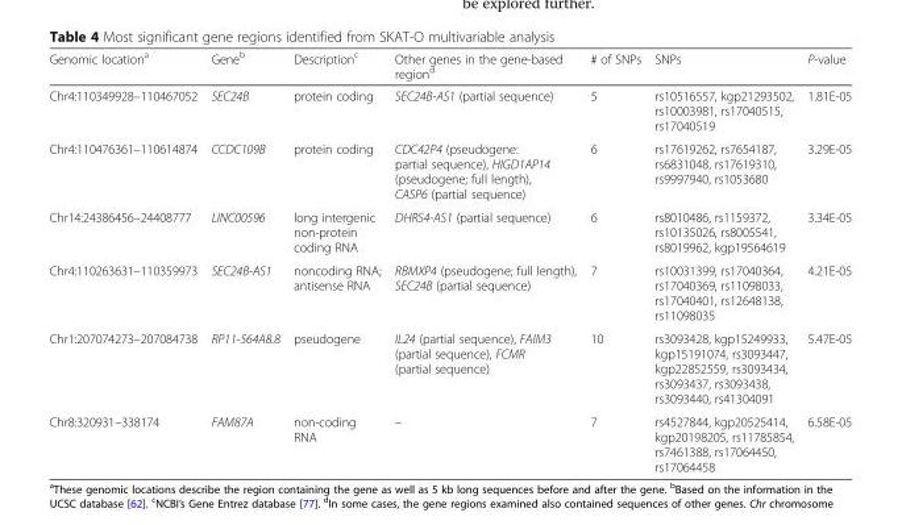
<table><thead><tr><td>Genomic location<sup>a</sup></td><td>Gene<sup>b</sup></td><td>Description<sup>c</sup></td><td>Other genes in the gene-based region<sup>d</sup></td><td># of SNPs</td><td>SNPs</td><td>P-value</td></tr></thead><tbody><tr><td>Chr4:110349928–110467052</td><td>SEC24B</td><td>protein coding</td><td>SEC24B-AS1 (partial sequence)</td><td>5</td><td>rs10516557, kgp21293502, rs10003981, rs17040515, rs17040519</td><td>1.81E-05</td></tr><tr><td>Chr4:110476361–110614874</td><td>CCDC109B</td><td>protein coding</td><td>CDC42P4 (pseudogene: partial sequence), HIGD1AP14 (pseudogene; full length), CASP6 (partial sequence)</td><td>6</td><td>rs17619262, rs7654187, rs6831048, rs17619310, rs9997940, rs1053680</td><td>3.29E-05</td></tr><tr><td>Chr14:24386456–24408777</td><td>LINC00596</td><td>long intergenic non-protein coding RNA</td><td>DHRS4-AS1 (partial sequence)</td><td>6</td><td>rs8010486, rs1159372, rs10135026, rs8005541, rs8019962, kgp19564619</td><td>3.34E-05</td></tr><tr><td>Chr4:110263631–110359973</td><td>SEC24B-AS1</td><td>noncoding RNA; antisense RNA</td><td>RBMXP4 (pseudogene; full length), SEC24B (partial sequence)</td><td>7</td><td>rs10031399, rs17040364, rs17040369, rs11098033, rs17040401, rs12648138, rs11098035</td><td>4.21E-05</td></tr><tr><td>Chr1:207074273–207084738</td><td>RP11-564A8.8</td><td>pseudogene</td><td>IL24 (partial sequence), FAIM3 (partial sequence), FCMR (partial sequence)</td><td>10</td><td>rs3093428, kgp15249933, kgp15191074, rs3093447, kgp22852559, rs3093434, rs3093437, rs3093438, rs3093440, rs41304091</td><td>5.47E-05</td></tr><tr><td>Chr8:320931–338174</td><td>FAM87A</td><td>non-coding RNA</td><td>–</td><td>7</td><td>rs4527844, kgp20525414, kgp20198205, rs11785854, rs7461388, rs17064450, rs17064458</td><td>6.58E-05</td></tr></tbody></table>